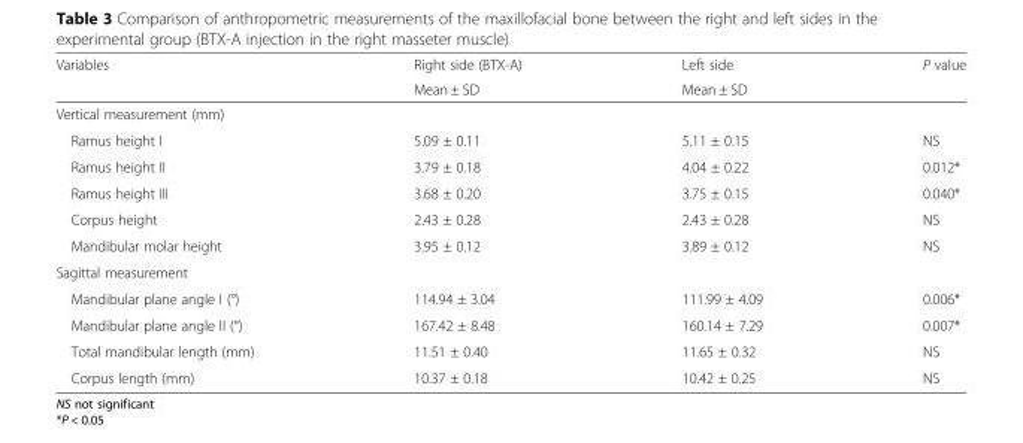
<table><thead><tr><td rowspan="2">Variables</td><td rowspan="2">Right side (BTX-A) Mean ± SD</td><td rowspan="2">Left side Mean ± SD</td><td rowspan="2">P value</td></tr><tr></tr></thead><tbody><tr><td colspan="4">Vertical measurement (mm)</td></tr><tr><td>Ramus height I</td><td>5.09 ± 0.11</td><td>5.11 ± 0.15</td><td>NS</td></tr><tr><td>Ramus height II</td><td>3.79 ± 0.18</td><td>4.04 ± 0.22</td><td>0.012*</td></tr><tr><td>Ramus height III</td><td>3.68 ± 0.20</td><td>3.75 ± 0.15</td><td>0.040*</td></tr><tr><td>Corpus height</td><td>2.43 ± 0.28</td><td>2.43 ± 0.28</td><td>NS</td></tr><tr><td>Mandibular molar height</td><td>3.95 ± 0.12</td><td>3.89 ± 0.12</td><td>NS</td></tr><tr><td colspan="4">Sagittal measurement</td></tr><tr><td>Mandibular plane angle I (°)</td><td>114.94 ± 3.04</td><td>111.99 ± 4.09</td><td>0.006*</td></tr><tr><td>Mandibular plane angle II (°)</td><td>167.42 ± 8.48</td><td>160.14 ± 7.29</td><td>0.007*</td></tr><tr><td>Total mandibular length (mm)</td><td>11.51 ± 0.40</td><td>11.65 ± 0.32</td><td>NS</td></tr><tr><td>Corpus length (mm)</td><td>10.37 ± 0.18</td><td>10.42 ± 0.25</td><td>NS</td></tr></tbody></table>